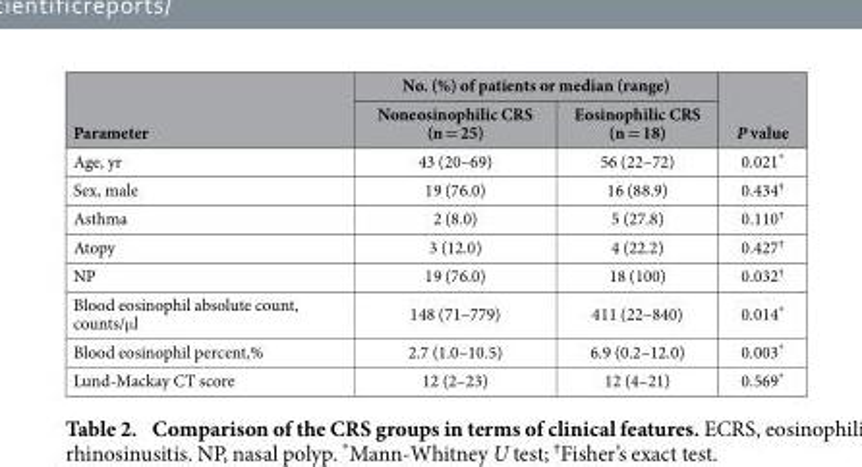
<table><thead><tr><td rowspan="2">Parameter</td><td colspan="2">No. (%) of patients or median (range)</td><td rowspan="2">P value</td></tr><tr><td>Noneosinophilic CRS (n = 25)</td><td>Eosinophilic CRS (n = 18)</td></tr></thead><tbody><tr><td>Age, yr</td><td>43 (20–69)</td><td>56 (22–72)</td><td>0.021*</td></tr><tr><td>Sex, male</td><td>19 (76.0)</td><td>16 (88.9)</td><td>0.434<sup>†</sup></td></tr><tr><td>Asthma</td><td>2 (8.0)</td><td>5 (27.8)</td><td>0.110<sup>†</sup></td></tr><tr><td>Atopy</td><td>3 (12.0)</td><td>4 (22.2)</td><td>0.427<sup>†</sup></td></tr><tr><td>NP</td><td>19 (76.0)</td><td>18 (100)</td><td>0.032<sup>†</sup></td></tr><tr><td>Blood eosinophil absolute count, counts/μ l</td><td>148 (71–779)</td><td>411 (22–840)</td><td>0.014*</td></tr><tr><td>Blood eosinophil percent,%</td><td>2.7 (1.0–10.5)</td><td>6.9 (0.2–12.0)</td><td>0.003*</td></tr><tr><td>Lund-Mackay CT score</td><td>12 (2–23)</td><td>12 (4–21)</td><td>0.569*</td></tr></tbody></table>